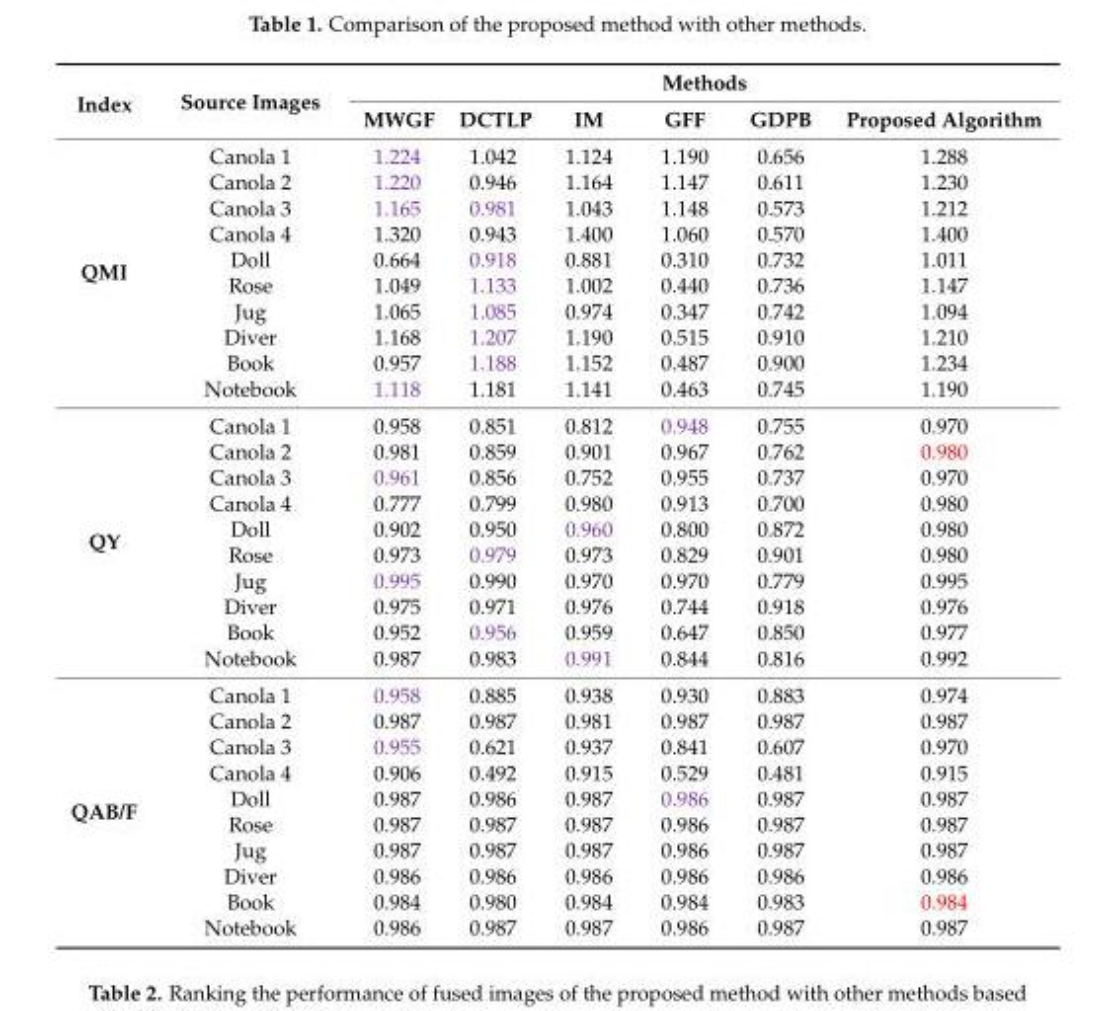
<table><thead><tr><td rowspan="2">Index</td><td rowspan="2">Source Images</td><td colspan="6">Methods</td></tr><tr><td>MWGF</td><td>DCTLP</td><td>IM</td><td>GFF</td><td>GDPB</td><td>Proposed Algorithm</td></tr></thead><tbody><tr><td rowspan="10">QMI</td><td>Canola 1</td><td>1.224</td><td>1.042</td><td>1.124</td><td>1.190</td><td>0.656</td><td>1.288</td></tr><tr><td>Canola 2</td><td>1.220</td><td>0.946</td><td>1.164</td><td>1.147</td><td>0.611</td><td>1.230</td></tr><tr><td>Canola 3</td><td>1.165</td><td>0.981</td><td>1.043</td><td>1.148</td><td>0.573</td><td>1.212</td></tr><tr><td>Canola 4</td><td>1.320</td><td>0.943</td><td>1.400</td><td>1.060</td><td>0.570</td><td>1.400</td></tr><tr><td>Doll</td><td>0.664</td><td>0.918</td><td>0.881</td><td>0.310</td><td>0.732</td><td>1.011</td></tr><tr><td>Rose</td><td>1.049</td><td>1.133</td><td>1.002</td><td>0.440</td><td>0.736</td><td>1.147</td></tr><tr><td>Jug</td><td>1.065</td><td>1.085</td><td>0.974</td><td>0.347</td><td>0.742</td><td>1.094</td></tr><tr><td>Diver</td><td>1.168</td><td>1.207</td><td>1.190</td><td>0.515</td><td>0.910</td><td>1.210</td></tr><tr><td>Book</td><td>0.957</td><td>1.188</td><td>1.152</td><td>0.487</td><td>0.900</td><td>1.234</td></tr><tr><td>Notebook</td><td>1.118</td><td>1.181</td><td>1.141</td><td>0.463</td><td>0.745</td><td>1.190</td></tr><tr><td rowspan="10">QY</td><td>Canola 1</td><td>0.958</td><td>0.851</td><td>0.812</td><td>0.948</td><td>0.755</td><td>0.970</td></tr><tr><td>Canola 2</td><td>0.981</td><td>0.859</td><td>0.901</td><td>0.967</td><td>0.762</td><td>0.980</td></tr><tr><td>Canola 3</td><td>0.961</td><td>0.856</td><td>0.752</td><td>0.955</td><td>0.737</td><td>0.970</td></tr><tr><td>Canola 4</td><td>0.777</td><td>0.799</td><td>0.980</td><td>0.913</td><td>0.700</td><td>0.980</td></tr><tr><td>Doll</td><td>0.902</td><td>0.950</td><td>0.960</td><td>0.800</td><td>0.872</td><td>0.980</td></tr><tr><td>Rose</td><td>0.973</td><td>0.979</td><td>0.973</td><td>0.829</td><td>0.901</td><td>0.980</td></tr><tr><td>Jug</td><td>0.995</td><td>0.990</td><td>0.970</td><td>0.970</td><td>0.779</td><td>0.995</td></tr><tr><td>Diver</td><td>0.975</td><td>0.971</td><td>0.976</td><td>0.744</td><td>0.918</td><td>0.976</td></tr><tr><td>Book</td><td>0.952</td><td>0.956</td><td>0.959</td><td>0.647</td><td>0.850</td><td>0.977</td></tr><tr><td>Notebook</td><td>0.987</td><td>0.983</td><td>0.991</td><td>0.844</td><td>0.816</td><td>0.992</td></tr><tr><td rowspan="10">QAB/F</td><td>Canola 1</td><td>0.958</td><td>0.885</td><td>0.938</td><td>0.930</td><td>0.883</td><td>0.974</td></tr><tr><td>Canola 2</td><td>0.987</td><td>0.987</td><td>0.981</td><td>0.987</td><td>0.987</td><td>0.987</td></tr><tr><td>Canola 3</td><td>0.955</td><td>0.621</td><td>0.937</td><td>0.841</td><td>0.607</td><td>0.970</td></tr><tr><td>Canola 4</td><td>0.906</td><td>0.492</td><td>0.915</td><td>0.529</td><td>0.481</td><td>0.915</td></tr><tr><td>Doll</td><td>0.987</td><td>0.986</td><td>0.987</td><td>0.986</td><td>0.987</td><td>0.987</td></tr><tr><td>Rose</td><td>0.987</td><td>0.987</td><td>0.987</td><td>0.986</td><td>0.987</td><td>0.987</td></tr><tr><td>Jug</td><td>0.987</td><td>0.987</td><td>0.987</td><td>0.986</td><td>0.987</td><td>0.987</td></tr><tr><td>Diver</td><td>0.986</td><td>0.986</td><td>0.986</td><td>0.986</td><td>0.986</td><td>0.986</td></tr><tr><td>Book</td><td>0.984</td><td>0.980</td><td>0.984</td><td>0.984</td><td>0.983</td><td>0.984</td></tr><tr><td>Notebook</td><td>0.986</td><td>0.987</td><td>0.987</td><td>0.986</td><td>0.987</td><td>0.987</td></tr></tbody></table>